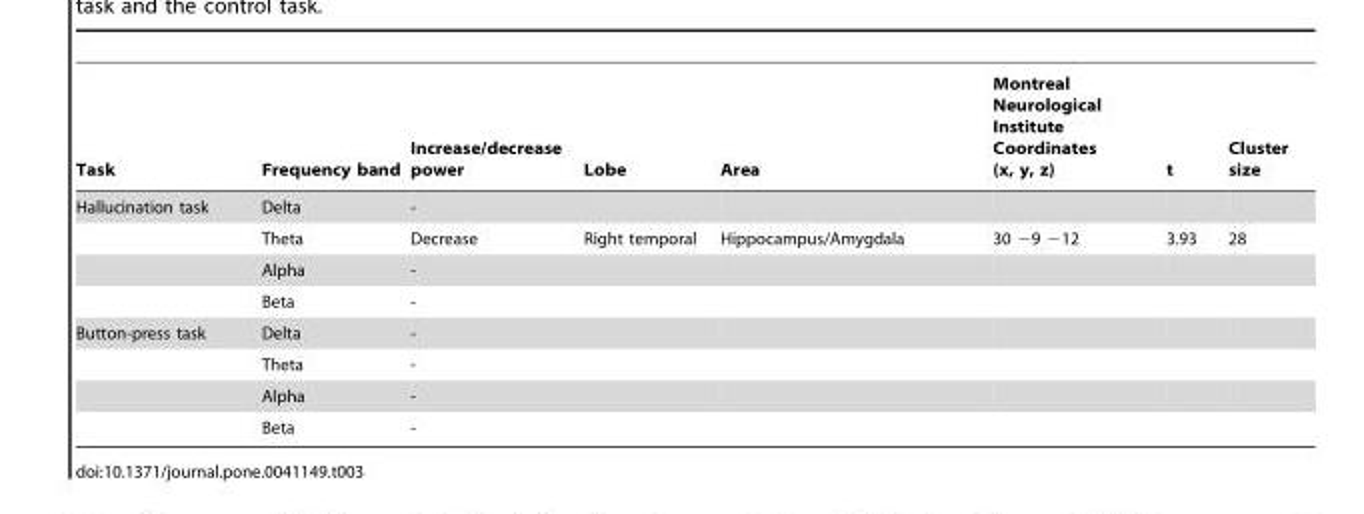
<table><thead><tr><td>Task</td><td>Frequency band</td><td>Increase/decrease power</td><td>Lobe</td><td>Area</td><td>Montreal Neurological Institute Coordinates (x, y, z)</td><td>t</td><td>Cluster size</td></tr></thead><tbody><tr><td rowspan="4">Hallucination task</td><td>Delta</td><td>-</td><td></td><td></td><td></td><td></td><td></td></tr><tr><td>Theta</td><td>Decrease</td><td>Right temporal</td><td>Hippocampus/Amygdala</td><td>30 −9 −12</td><td>3.93</td><td>28</td></tr><tr><td>Alpha</td><td>-</td><td></td><td></td><td></td><td></td><td></td></tr><tr><td>Beta</td><td>-</td><td></td><td></td><td></td><td></td><td></td></tr><tr><td rowspan="4">Button-press task</td><td>Delta</td><td>-</td><td></td><td></td><td></td><td></td><td></td></tr><tr><td>Theta</td><td>-</td><td></td><td></td><td></td><td></td><td></td></tr><tr><td>Alpha</td><td>-</td><td></td><td></td><td></td><td></td><td></td></tr><tr><td>Beta</td><td>-</td><td></td><td></td><td></td><td></td><td></td></tr></tbody></table>